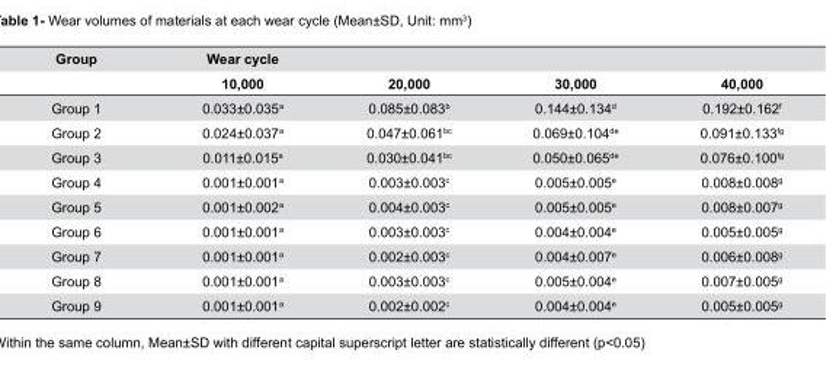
<table><thead><tr><td rowspan="2">Group</td><td rowspan="2">Wear cycle 10,000</td><td rowspan="2">20,000</td><td rowspan="2">30,000</td><td rowspan="2">40,000</td></tr><tr></tr></thead><tbody><tr><td>Group 1</td><td>0.033±0.035<sup>a</sup></td><td>0.085±0.083<sup>b</sup></td><td>0.144±0.134<sup>d</sup></td><td>0.192±0.162<sup>f</sup></td></tr><tr><td>Group 2</td><td>0.024±0.037<sup>a</sup></td><td>0.047±0.061<sup>bc</sup></td><td>0.069±0.104<sup>de</sup></td><td>0.091±0.133<sup>fg</sup></td></tr><tr><td>Group 3</td><td>0.011±0.015<sup>a</sup></td><td>0.030±0.041<sup>bc</sup></td><td>0.050±0.065<sup>de</sup></td><td>0.076±0.100<sup>fg</sup></td></tr><tr><td>Group 4</td><td>0.001±0.001<sup>a</sup></td><td>0.003±0.003<sup>c</sup></td><td>0.005±0.005<sup>e</sup></td><td>0.008±0.008<sup>g</sup></td></tr><tr><td>Group 5</td><td>0.001±0.002<sup>a</sup></td><td>0.004±0.003<sup>c</sup></td><td>0.005±0.005<sup>e</sup></td><td>0.008±0.007<sup>g</sup></td></tr><tr><td>Group 6</td><td>0.001±0.001<sup>a</sup></td><td>0.003±0.003<sup>c</sup></td><td>0.004±0.004<sup>e</sup></td><td>0.005±0.005<sup>g</sup></td></tr><tr><td>Group 7</td><td>0.001±0.001<sup>a</sup></td><td>0.002±0.003<sup>c</sup></td><td>0.004±0.007<sup>e</sup></td><td>0.006±0.008<sup>g</sup></td></tr><tr><td>Group 8</td><td>0.001±0.001<sup>a</sup></td><td>0.003±0.003<sup>c</sup></td><td>0.005±0.004<sup>e</sup></td><td>0.007±0.005<sup>g</sup></td></tr><tr><td>Group 9</td><td>0.001±0.001<sup>a</sup></td><td>0.002±0.002<sup>c</sup></td><td>0.004±0.004<sup>e</sup></td><td>0.005±0.005<sup>g</sup></td></tr></tbody></table>